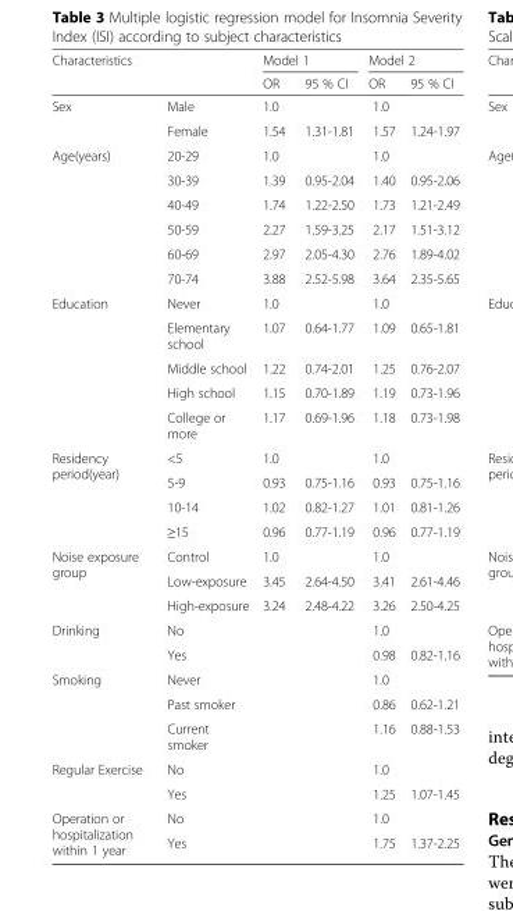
<table><thead><tr><td rowspan="2">Characteristics</td><td rowspan="2"></td><td colspan="2">Model 1</td><td colspan="2">Model 2</td></tr><tr><td>OR</td><td>95 % CI</td><td>OR</td><td>95 % CI</td></tr></thead><tbody><tr><td rowspan="2">Sex</td><td>Male</td><td>1.0</td><td></td><td>1.0</td><td></td></tr><tr><td>Female</td><td>1.54</td><td>1.31-1.81</td><td>1.57</td><td>1.24-1.97</td></tr><tr><td rowspan="6">Age(years)</td><td>20-29</td><td>1.0</td><td></td><td>1.0</td><td></td></tr><tr><td>30-39</td><td>1.39</td><td>0.95-2.04</td><td>1.40</td><td>0.95-2.06</td></tr><tr><td>40-49</td><td>1.74</td><td>1.22-2.50</td><td>1.73</td><td>1.21-2.49</td></tr><tr><td>50-59</td><td>2.27</td><td>1.59-3.25</td><td>2.17</td><td>1.51-3.12</td></tr><tr><td>60-69</td><td>2.97</td><td>2.05-4.30</td><td>2.76</td><td>1.89-4.02</td></tr><tr><td>70-74</td><td>3.88</td><td>2.52-5.98</td><td>3.64</td><td>2.35-5.65</td></tr><tr><td rowspan="5">Education</td><td>Never</td><td>1.0</td><td></td><td>1.0</td><td></td></tr><tr><td>Elementary school</td><td>1.07</td><td>0.64-1.77</td><td>1.09</td><td>0.65-1.81</td></tr><tr><td>Middle school</td><td>1.22</td><td>0.74-2.01</td><td>1.25</td><td>0.76-2.07</td></tr><tr><td>High school</td><td>1.15</td><td>0.70-1.89</td><td>1.19</td><td>0.73-1.96</td></tr><tr><td>College or more</td><td>1.17</td><td>0.69-1.96</td><td>1.18</td><td>0.73-1.98</td></tr><tr><td rowspan="4">Residency period(year)</td><td>&lt;5</td><td>1.0</td><td></td><td>1.0</td><td></td></tr><tr><td>5-9</td><td>0.93</td><td>0.75-1.16</td><td>0.93</td><td>0.75-1.16</td></tr><tr><td>10-14</td><td>1.02</td><td>0.82-1.27</td><td>1.01</td><td>0.81-1.26</td></tr><tr><td>≥15</td><td>0.96</td><td>0.77-1.19</td><td>0.96</td><td>0.77-1.19</td></tr><tr><td rowspan="3">Noise exposure group</td><td>Control</td><td>1.0</td><td></td><td>1.0</td><td></td></tr><tr><td>Low-exposure</td><td>3.45</td><td>2.64-4.50</td><td>3.41</td><td>2.61-4.46</td></tr><tr><td>High-exposure</td><td>3.24</td><td>2.48-4.22</td><td>3.26</td><td>2.50-4.25</td></tr><tr><td rowspan="2">Drinking</td><td>No</td><td></td><td></td><td>1.0</td><td></td></tr><tr><td>Yes</td><td></td><td></td><td>0.98</td><td>0.82-1.16</td></tr><tr><td rowspan="3">Smoking</td><td>Never</td><td></td><td></td><td>1.0</td><td></td></tr><tr><td>Past smoker</td><td></td><td></td><td>0.86</td><td>0.62-1.21</td></tr><tr><td>Current smoker</td><td></td><td></td><td>1.16</td><td>0.88-1.53</td></tr><tr><td rowspan="2">Regular Exercise</td><td>No</td><td></td><td></td><td>1.0</td><td></td></tr><tr><td>Yes</td><td></td><td></td><td>1.25</td><td>1.07-1.45</td></tr><tr><td rowspan="2">Operation or hospitalization within 1 year</td><td>No</td><td></td><td></td><td>1.0</td><td></td></tr><tr><td>Yes</td><td></td><td></td><td>1.75</td><td>1.37-2.25</td></tr></tbody></table>